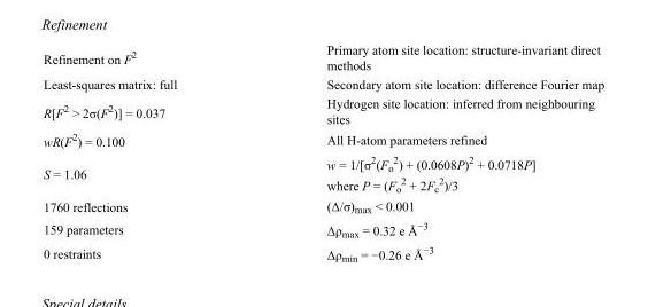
<table><tbody><tr><td>Refinement on F<sup>2</sup></td><td>Primary atom site location: structure-invariant direct methods</td></tr><tr><td>Least-squares matrix: full</td><td>Secondary atom site location: difference Fourier map</td></tr><tr><td>R[F<sup>2</sup> &gt; 2σ(F<sup>2</sup>)] = 0.037</td><td>Hydrogen site location: inferred from neighbouring sites</td></tr><tr><td>wR(F<sup>2</sup>) = 0.100</td><td>All H-atom parameters refined</td></tr><tr><td>S = 1.06</td><td>w = 1/[σ<sup>2</sup>(F<sub>o</sub> <sup>2</sup>) + (0.0608P)<sup>2</sup> + 0.0718P] where P = (F<sub>o</sub> <sup>2</sup> + 2F<sub>c</sub> <sup>2</sup>)/3</td></tr><tr><td>1760 reflections</td><td>(Δ/σ)<sub>max</sub> &lt; 0.001</td></tr><tr><td>159 parameters</td><td>Δρ<sub>max</sub> = 0.32 e Å<sup>−3</sup></td></tr><tr><td>0 restraints</td><td>Δρ<sub>min</sub> = −0.26 e Å<sup>−3</sup></td></tr></tbody></table>